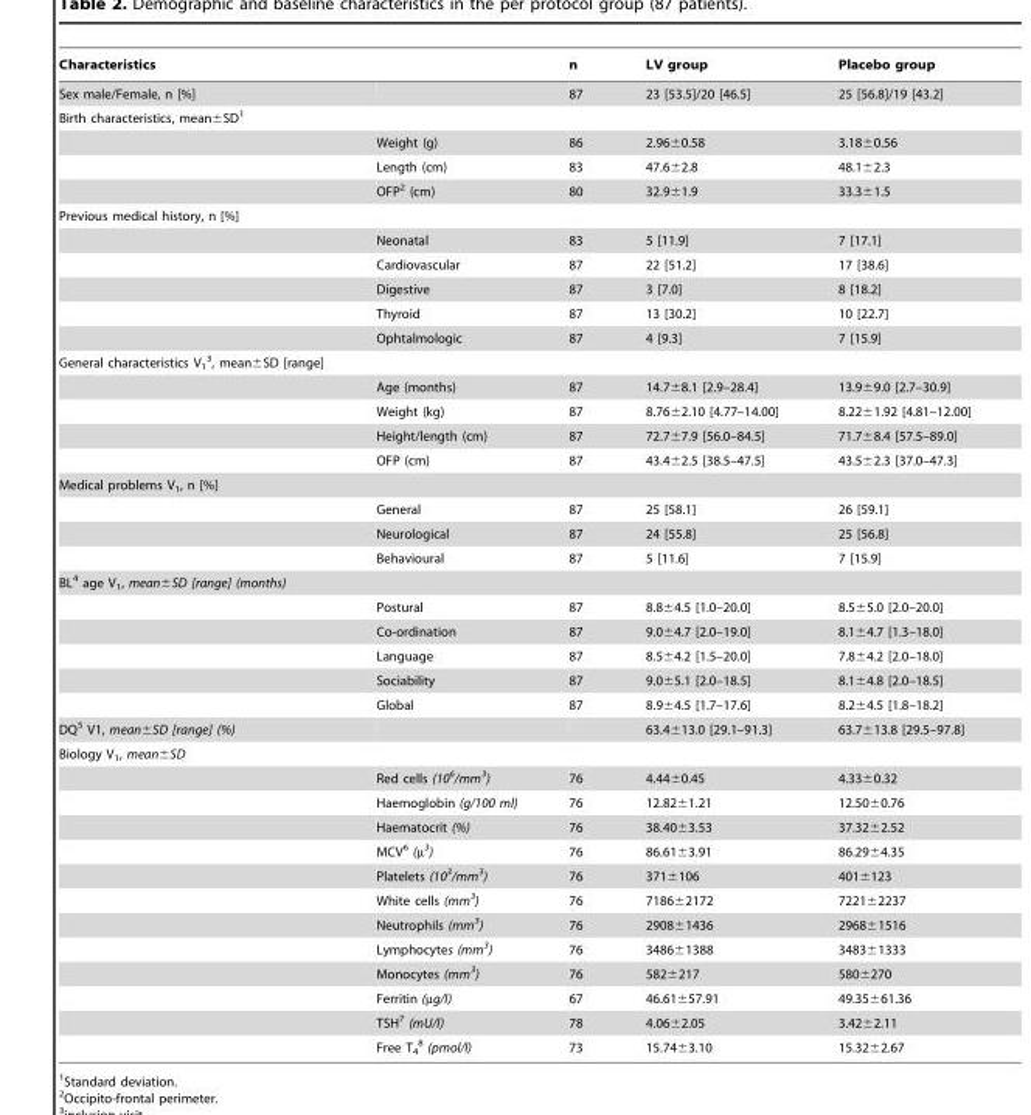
<table><thead><tr><td>Characteristics</td><td></td><td>n</td><td>LV group</td><td>Placebo group</td></tr></thead><tbody><tr><td>Sex male/Female, n [%]</td><td></td><td>87</td><td>23 [53.5]/20 [46.5]</td><td>25 [56.8]/19 [43.2]</td></tr><tr><td colspan="5">Birth characteristics, mean±SD<sup>1</sup></td></tr><tr><td></td><td>Weight (g)</td><td>86</td><td>2.96±0.58</td><td>3.18±0.56</td></tr><tr><td></td><td>Length (cm)</td><td>83</td><td>47.6±2.8</td><td>48.1±2.3</td></tr><tr><td></td><td>OFP<sup>2</sup> (cm)</td><td>80</td><td>32.9±1.9</td><td>33.3±1.5</td></tr><tr><td colspan="5">Previous medical history, n [%]</td></tr><tr><td></td><td>Neonatal</td><td>83</td><td>5 [11.9]</td><td>7 [17.1]</td></tr><tr><td></td><td>Cardiovascular</td><td>87</td><td>22 [51.2]</td><td>17 [38.6]</td></tr><tr><td></td><td>Digestive</td><td>87</td><td>3 [7.0]</td><td>8 [18.2]</td></tr><tr><td></td><td>Thyroid</td><td>87</td><td>13 [30.2]</td><td>10 [22.7]</td></tr><tr><td></td><td>Ophtalmologic</td><td>87</td><td>4 [9.3]</td><td>7 [15.9]</td></tr><tr><td colspan="5">General characteristics V<sub>1</sub> 3, mean±SD [range]</td></tr><tr><td></td><td>Age (months)</td><td>87</td><td>14.7±8.1 [2.9–28.4]</td><td>13.9±9.0 [2.7–30.9]</td></tr><tr><td></td><td>Weight (kg)</td><td>87</td><td>8.76±2.10 [4.77–14.00]</td><td>8.22±1.92 [4.81–12.00]</td></tr><tr><td></td><td>Height/length (cm)</td><td>87</td><td>72.7±7.9 [56.0–84.5]</td><td>71.7±8.4 [57.5–89.0]</td></tr><tr><td></td><td>OFP (cm)</td><td>87</td><td>43.4±2.5 [38.5–47.5]</td><td>43.5±2.3 [37.0–47.3]</td></tr><tr><td colspan="5">Medical problems V<sub>1</sub>, n [%]</td></tr><tr><td></td><td>General</td><td>87</td><td>25 [58.1]</td><td>26 [59.1]</td></tr><tr><td></td><td>Neurological</td><td>87</td><td>24 [55.8]</td><td>25 [56.8]</td></tr><tr><td></td><td>Behavioural</td><td>87</td><td>5 [11.6]</td><td>7 [15.9]</td></tr><tr><td colspan="5">BL<sup>4</sup> age V<sub>1</sub>, mean±SD [range] (months)</td></tr><tr><td></td><td>Postural</td><td>87</td><td>8.8±4.5 [1.0–20.0]</td><td>8.5±5.0 [2.0–20.0]</td></tr><tr><td></td><td>Co-ordination</td><td>87</td><td>9.0±4.7 [2.0–19.0]</td><td>8.1±4.7 [1.3–18.0]</td></tr><tr><td></td><td>Language</td><td>87</td><td>8.5±4.2 [1.5–20.0]</td><td>7.8±4.2 [2.0–18.0]</td></tr><tr><td></td><td>Sociability</td><td>87</td><td>9.0±5.1 [2.0–18.5]</td><td>8.1±4.8 [2.0–18.5]</td></tr><tr><td></td><td>Global</td><td>87</td><td>8.9±4.5 [1.7–17.6]</td><td>8.2±4.5 [1.8–18.2]</td></tr><tr><td>DQ<sup>5</sup> V1, mean±SD [range] (%)</td><td></td><td></td><td>63.4±13.0 [29.1–91.3]</td><td>63.7±13.8 [29.5–97.8]</td></tr><tr><td colspan="5">Biology V<sub>1</sub>, mean±SD</td></tr><tr><td></td><td>Red cells (106/mm3)</td><td>76</td><td>4.44±0.45</td><td>4.33±0.32</td></tr><tr><td></td><td>Haemoglobin (g/100 ml)</td><td>76</td><td>12.82±1.21</td><td>12.50±0.76</td></tr><tr><td></td><td>Haematocrit (%)</td><td>76</td><td>38.40±3.53</td><td>37.32±2.52</td></tr><tr><td></td><td>MCV<sup>6</sup> (µ3)</td><td>76</td><td>86.61±3.91</td><td>86.29±4.35</td></tr><tr><td></td><td>Platelets (103/mm3)</td><td>76</td><td>371±106</td><td>401±123</td></tr><tr><td></td><td>White cells (mm3)</td><td>76</td><td>7186±2172</td><td>7221±2237</td></tr><tr><td></td><td>Neutrophils (mm3)</td><td>76</td><td>2908±1436</td><td>2968±1516</td></tr><tr><td></td><td>Lymphocytes (mm3)</td><td>76</td><td>3486±1388</td><td>3483±1333</td></tr><tr><td></td><td>Monocytes (mm3)</td><td>76</td><td>582±217</td><td>580±270</td></tr><tr><td></td><td>Ferritin (µg/l)</td><td>67</td><td>46.61±57.91</td><td>49.35±61.36</td></tr><tr><td></td><td>TSH<sup>7</sup> (mU/l)</td><td>78</td><td>4.06±2.05</td><td>3.42±2.11</td></tr><tr><td></td><td>Free T<sub>4</sub> 8 (pmol/l)</td><td>73</td><td>15.74±3.10</td><td>15.32±2.67</td></tr></tbody></table>